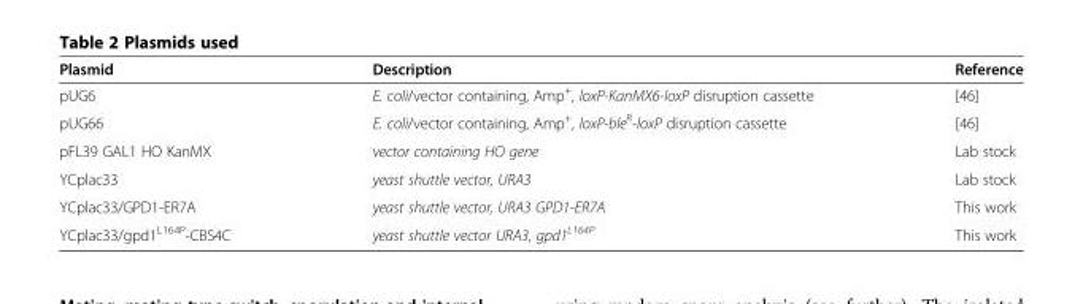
<table><thead><tr><td>Plasmid</td><td>Description</td><td>Reference</td></tr></thead><tbody><tr><td>pUG6</td><td>E. coli/vector containing, Amp<sup>+</sup>, loxP-KanMX6-loxP disruption cassette</td><td>[46]</td></tr><tr><td>pUG66</td><td>E. coli/vector containing, Amp<sup>+</sup>, loxP-ble<sup>R</sup>-loxP disruption cassette</td><td>[46]</td></tr><tr><td>pFL39 GAL1 HO KanMX</td><td>vector containing HO gene</td><td>Lab stock</td></tr><tr><td>YCplac33</td><td>yeast shuttle vector, URA3</td><td>Lab stock</td></tr><tr><td>YCplac33/GPD1-ER7A</td><td>yeast shuttle vector, URA3 GPD1-ER7A</td><td>This work</td></tr><tr><td>YCplac33/gpd1<sup>L164P</sup>-CBS4C</td><td>yeast shuttle vector URA3, gpd1<sup>L164P</sup></td><td>This work</td></tr></tbody></table>